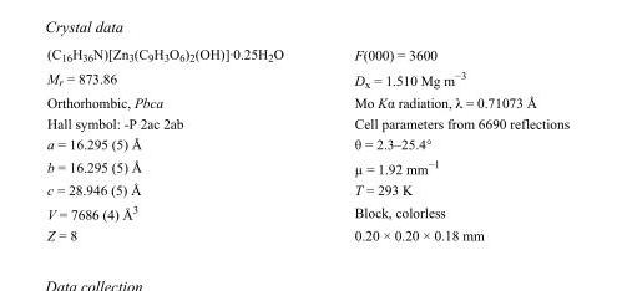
<table><tbody><tr><td>(C<sub>16</sub>H<sub>36</sub>N)[Zn<sub>3</sub>(C<sub>9</sub>H<sub>3</sub>O<sub>6</sub>)<sub>2</sub>(OH)]·0.25H<sub>2</sub>O</td><td>F(000) = 3600</td></tr><tr><td>M<sub>r</sub> = 873.86</td><td>D<sub>x</sub> = 1.510 Mg m<sup>−3</sup></td></tr><tr><td>Orthorhombic, Pbca</td><td>Mo Kα radiation, λ = 0.71073 Å</td></tr><tr><td>Hall symbol: -P 2ac 2ab</td><td>Cell parameters from 6690 reflections</td></tr><tr><td>a = 16.295 (5) Å</td><td>θ = 2.3–25.4°</td></tr><tr><td>b = 16.295 (5) Å</td><td>µ = 1.92 mm<sup>−1</sup></td></tr><tr><td>c = 28.946 (5) Å</td><td>T = 293 K</td></tr><tr><td>V = 7686 (4) Å<sup>3</sup></td><td>Block, colorless</td></tr><tr><td>Z = 8</td><td>0.20 × 0.20 × 0.18 mm</td></tr></tbody></table>